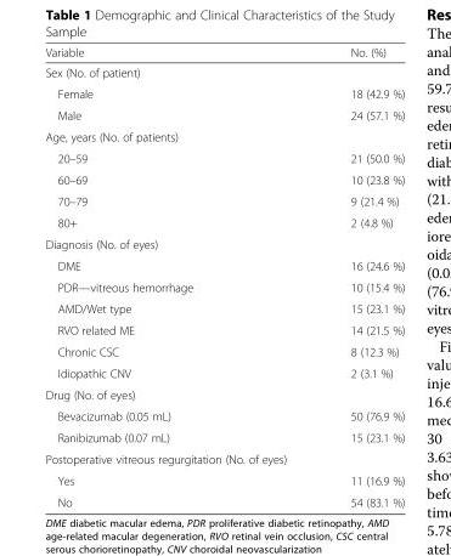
<table><thead><tr><td>Variable</td><td>No. (%)</td></tr></thead><tbody><tr><td colspan="2">Sex (No. of patient)</td></tr><tr><td>Female</td><td>18 (42.9 %)</td></tr><tr><td>Male</td><td>24 (57.1 %)</td></tr><tr><td colspan="2">Age, years (No. of patients)</td></tr><tr><td>20–59</td><td>21 (50.0 %)</td></tr><tr><td>60–69</td><td>10 (23.8 %)</td></tr><tr><td>70–79</td><td>9 (21.4 %)</td></tr><tr><td>80+</td><td>2 (4.8 %)</td></tr><tr><td colspan="2">Diagnosis (No. of eyes)</td></tr><tr><td>DME</td><td>16 (24.6 %)</td></tr><tr><td>PDR—vitreous hemorrhage</td><td>10 (15.4 %)</td></tr><tr><td>AMD/Wet type</td><td>15 (23.1 %)</td></tr><tr><td>RVO related ME</td><td>14 (21.5 %)</td></tr><tr><td>Chronic CSC</td><td>8 (12.3 %)</td></tr><tr><td>Idiopathic CNV</td><td>2 (3.1 %)</td></tr><tr><td colspan="2">Drug (No. of eyes)</td></tr><tr><td>Bevacizumab (0.05 mL)</td><td>50 (76.9 %)</td></tr><tr><td>Ranibizumab (0.07 mL)</td><td>15 (23.1 %)</td></tr><tr><td colspan="2">Postoperative vitreous regurgitation (No. of eyes)</td></tr><tr><td>Yes</td><td>11 (16.9 %)</td></tr><tr><td>No</td><td>54 (83.1 %)</td></tr></tbody></table>